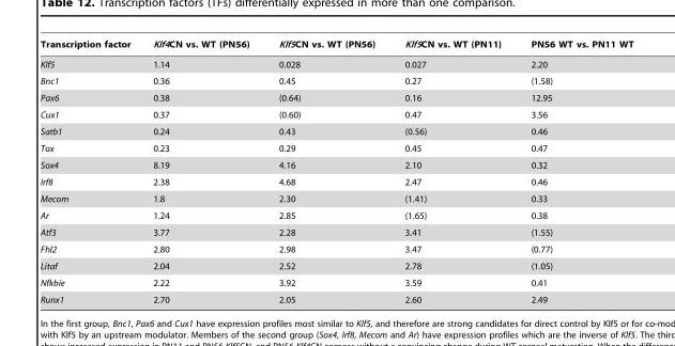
<table><thead><tr><td>Transcription factor</td><td>Klf4CN vs. WT (PN56)</td><td>Klf5CN vs. WT (PN56)</td><td>Klf5CN vs. WT (PN11)</td><td>PN56 WT vs. PN11 WT</td></tr></thead><tbody><tr><td>Klf5</td><td>1.14</td><td>0.028</td><td>0.027</td><td>2.20</td></tr><tr><td>Bnc1</td><td>0.36</td><td>0.45</td><td>0.27</td><td>(1.58)</td></tr><tr><td>Pax6</td><td>0.38</td><td>(0.64)</td><td>0.16</td><td>12.95</td></tr><tr><td>Cux1</td><td>0.37</td><td>(0.60)</td><td>0.47</td><td>3.56</td></tr><tr><td>Satb1</td><td>0.24</td><td>0.43</td><td>(0.56)</td><td>0.46</td></tr><tr><td>Tox</td><td>0.23</td><td>0.29</td><td>0.45</td><td>0.47</td></tr><tr><td>Sox4</td><td>8.19</td><td>4.16</td><td>2.10</td><td>0.32</td></tr><tr><td>Irf8</td><td>2.38</td><td>4.68</td><td>2.47</td><td>0.46</td></tr><tr><td>Mecom</td><td>1.8</td><td>2.30</td><td>(1.41)</td><td>0.33</td></tr><tr><td>Ar</td><td>1.24</td><td>2.85</td><td>(1.65)</td><td>0.38</td></tr><tr><td>Atf3</td><td>3.77</td><td>2.28</td><td>3.41</td><td>(1.55)</td></tr><tr><td>Fhl2</td><td>2.80</td><td>2.98</td><td>3.47</td><td>(0.77)</td></tr><tr><td>Litaf</td><td>2.04</td><td>2.52</td><td>2.78</td><td>(1.05)</td></tr><tr><td>Nfkbie</td><td>2.22</td><td>3.92</td><td>3.59</td><td>0.41</td></tr><tr><td>Runx1</td><td>2.70</td><td>2.05</td><td>2.60</td><td>2.49</td></tr></tbody></table>